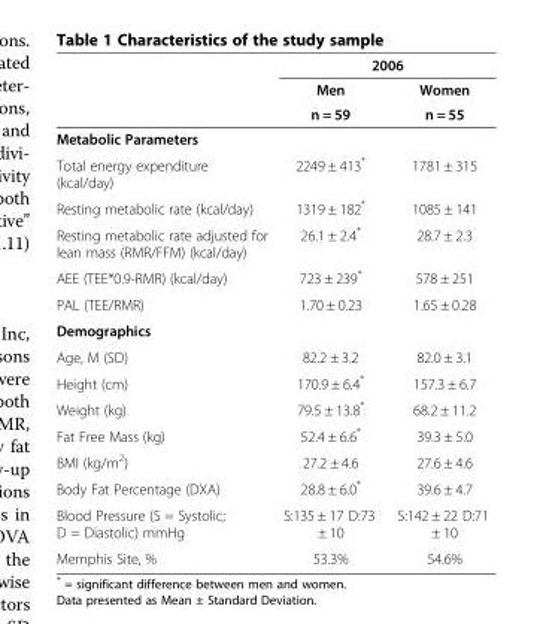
<table><thead><tr><td rowspan="3"></td><td colspan="2">2006</td></tr><tr><td rowspan="2">Men n = 59</td><td rowspan="2">Women n = 55</td></tr><tr></tr></thead><tbody><tr><td colspan="3">Metabolic Parameters</td></tr><tr><td>Total energy expenditure (kcal/day)</td><td>2249 ± 413*</td><td>1781 ± 315</td></tr><tr><td>Resting metabolic rate (kcal/day)</td><td>1319 ± 182*</td><td>1085 ± 141</td></tr><tr><td>Resting metabolic rate adjusted for lean mass (RMR/FFM) (kcal/day)</td><td>26.1 ± 2.4*</td><td>28.7 ± 2.3</td></tr><tr><td>AEE (TEE*0.9-RMR) (kcal/day)</td><td>723 ± 239*</td><td>578 ± 251</td></tr><tr><td>PAL (TEE/RMR)</td><td>1.70 ± 0.23</td><td>1.65 ± 0.28</td></tr><tr><td colspan="3">Demographics</td></tr><tr><td>Age, M (SD)</td><td>82.2 ± 3.2</td><td>82.0 ± 3.1</td></tr><tr><td>Height (cm)</td><td>170.9 ± 6.4*</td><td>157.3 ± 6.7</td></tr><tr><td>Weight (kg)</td><td>79.5 ± 13.8*</td><td>68.2 ± 11.2</td></tr><tr><td>Fat Free Mass (kg)</td><td>52.4 ± 6.6*</td><td>39.3 ± 5.0</td></tr><tr><td>BMI (kg/m<sup>2</sup>)</td><td>27.2 ± 4.6</td><td>27.6 ± 4.6</td></tr><tr><td>Body Fat Percentage (DXA)</td><td>28.8 ± 6.0*</td><td>39.6 ± 4.7</td></tr><tr><td>Blood Pressure (S = Systolic; D = Diastolic) mmHg</td><td>S:135 ± 17 D:73 ± 10</td><td>S:142 ± 22 D:71 ± 10</td></tr><tr><td>Memphis Site, %</td><td>53.3%</td><td>54.6%</td></tr></tbody></table>